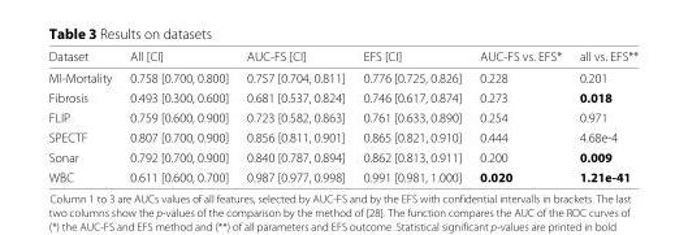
<table><thead><tr><td>Dataset</td><td>All [CI]</td><td>AUC-FS [CI]</td><td>EFS [CI]</td><td>AUC-FS vs. EFS*</td><td>all vs. EFS**</td></tr></thead><tbody><tr><td>MI-Mortality</td><td>0.758 [0.700, 0.800]</td><td>0.757 [0.704, 0.811]</td><td>0.776 [0.725, 0.826]</td><td>0.228</td><td>0.201</td></tr><tr><td>Fibrosis</td><td>0.493 [0.300, 0.600]</td><td>0.681 [0.537, 0.824]</td><td>0.746 [0.617, 0.874]</td><td>0.273</td><td>0.018</td></tr><tr><td>FLIP</td><td>0.759 [0.600, 0.900]</td><td>0.723 [0.582, 0.863]</td><td>0.761 [0.633, 0.890]</td><td>0.254</td><td>0.971</td></tr><tr><td>SPECTF</td><td>0.807 [0.700, 0.900]</td><td>0.856 [0.811, 0.901]</td><td>0.865 [0.821, 0.910]</td><td>0.444</td><td>4.68e-4</td></tr><tr><td>Sonar</td><td>0.792 [0.700, 0.900]</td><td>0.840 [0.787, 0.894]</td><td>0.862 [0.813, 0.911]</td><td>0.200</td><td>0.009</td></tr><tr><td>WBC</td><td>0.611 [0.600, 0.700]</td><td>0.987 [0.977, 0.998]</td><td>0.991 [0.981, 1.000]</td><td>0.020</td><td>1.21e-41</td></tr></tbody></table>